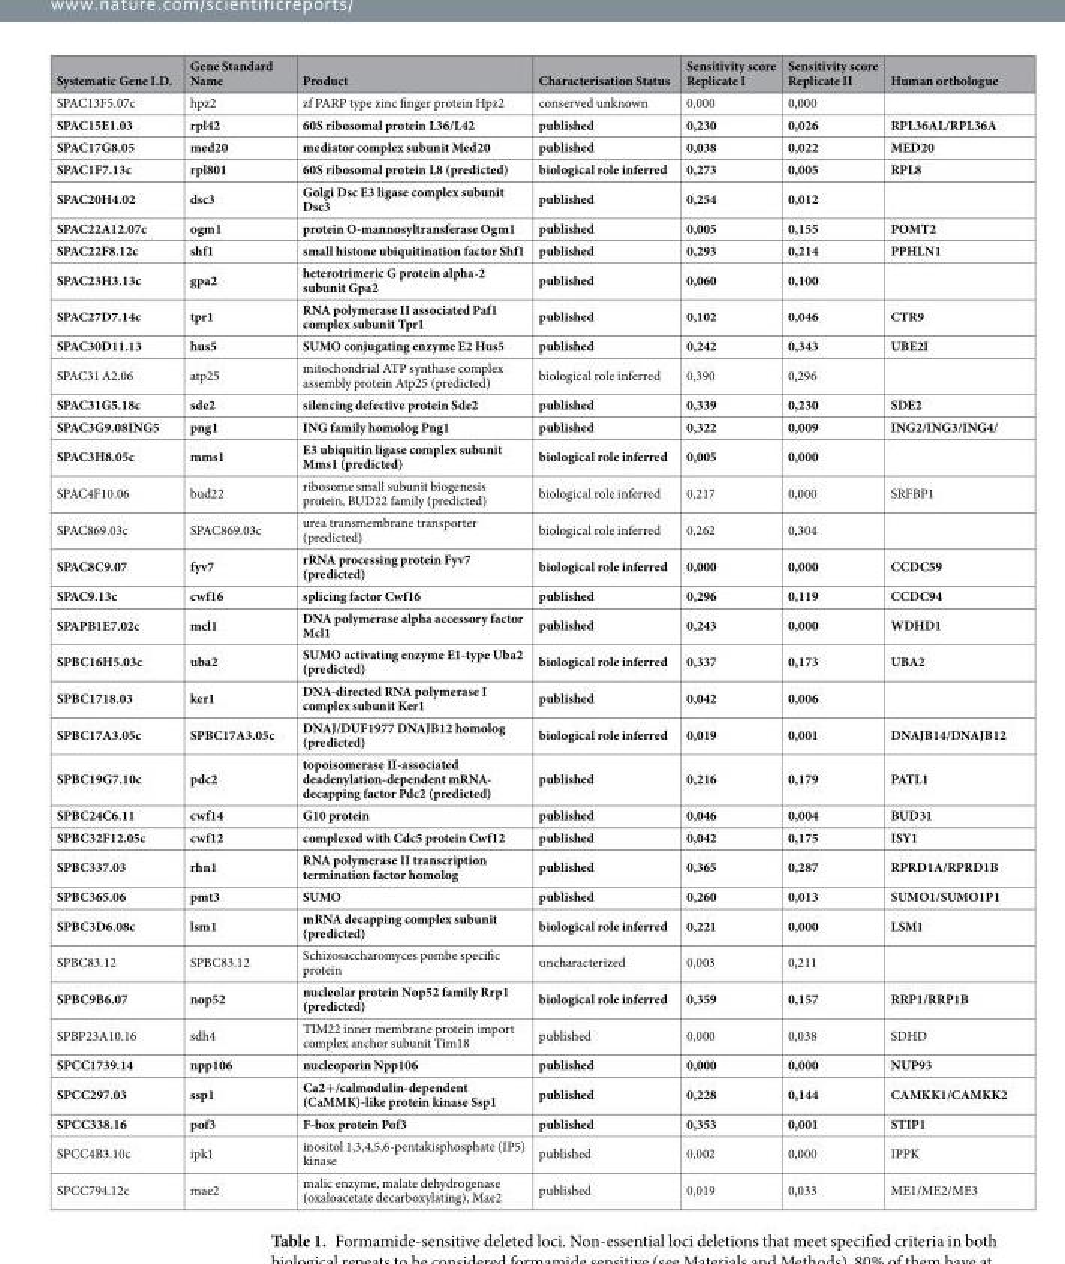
<table><thead><tr><td>Systematic Gene I.D.</td><td>Gene Standard Name</td><td>Product</td><td>Characterisation Status</td><td>Sensitivity score Replicate I</td><td>Sensitivity score Replicate II</td><td>Human orthologue</td></tr></thead><tbody><tr><td>SPAC13F5.07c</td><td>hpz2</td><td>zf PARP type zinc finger protein Hpz2</td><td>conserved unknown</td><td>0,000</td><td>0,000</td><td></td></tr><tr><td>SPAC15E1.03</td><td>rpl42</td><td>60S ribosomal protein L36/L42</td><td>published</td><td>0,230</td><td>0,026</td><td>RPL36AL/RPL36A</td></tr><tr><td>SPAC17G8.05</td><td>med20</td><td>mediator complex subunit Med20</td><td>published</td><td>0,038</td><td>0,022</td><td>MED20</td></tr><tr><td>SPAC1F7.13c</td><td>rpl801</td><td>60S ribosomal protein L8 (predicted)</td><td>biological role inferred</td><td>0,273</td><td>0,005</td><td>RPL8</td></tr><tr><td>SPAC20H4.02</td><td>dsc3</td><td>Golgi Dsc E3 ligase complex subunit Dsc3</td><td>published</td><td>0,254</td><td>0,012</td><td></td></tr><tr><td>SPAC22A12.07c</td><td>ogm1</td><td>protein O-mannosyltransferase Ogm1</td><td>published</td><td>0,005</td><td>0,155</td><td>POMT2</td></tr><tr><td>SPAC22F8.12c</td><td>shf1</td><td>small histone ubiquitination factor Shf1</td><td>published</td><td>0,293</td><td>0,214</td><td>PPHLN1</td></tr><tr><td>SPAC23H3.13c</td><td>gpa2</td><td>heterotrimeric G protein alpha-2 subunit Gpa2</td><td>published</td><td>0,060</td><td>0,100</td><td></td></tr><tr><td>SPAC27D7.14c</td><td>tpr1</td><td>RNA polymerase II associated Paf1 complex subunit Tpr1</td><td>published</td><td>0,102</td><td>0,046</td><td>CTR9</td></tr><tr><td>SPAC30D11.13</td><td>hus5</td><td>SUMO conjugating enzyme E2 Hus5</td><td>published</td><td>0,242</td><td>0,343</td><td>UBE2I</td></tr><tr><td>SPAC31 A2.06</td><td>atp25</td><td>mitochondrial ATP synthase complex assembly protein Atp25 (predicted)</td><td>biological role inferred</td><td>0,390</td><td>0,296</td><td></td></tr><tr><td>SPAC31G5.18c</td><td>sde2</td><td>silencing defective protein Sde2</td><td>published</td><td>0,339</td><td>0,230</td><td>SDE2</td></tr><tr><td>SPAC3G9.08ING5</td><td>png1</td><td>ING family homolog Png1</td><td>published</td><td>0,322</td><td>0,009</td><td>ING2/ING3/ING4/</td></tr><tr><td>SPAC3H8.05c</td><td>mms1</td><td>E3 ubiquitin ligase complex subunit Mms1 (predicted)</td><td>biological role inferred</td><td>0,005</td><td>0,000</td><td></td></tr><tr><td>SPAC4F10.06</td><td>bud22</td><td>ribosome small subunit biogenesis protein, BUD22 family (predicted)</td><td>biological role inferred</td><td>0,217</td><td>0,000</td><td>SRFBP1</td></tr><tr><td>SPAC869.03c</td><td>SPAC869.03c</td><td>urea transmembrane transporter (predicted)</td><td>biological role inferred</td><td>0,262</td><td>0,304</td><td></td></tr><tr><td>SPAC8C9.07</td><td>fyv7</td><td>rRNA processing protein Fyv7 (predicted)</td><td>biological role inferred</td><td>0,000</td><td>0,000</td><td>CCDC59</td></tr><tr><td>SPAC9.13c</td><td>cwf16</td><td>splicing factor Cwf16</td><td>published</td><td>0,296</td><td>0,119</td><td>CCDC94</td></tr><tr><td>SPAPB1E7.02c</td><td>mcl1</td><td>DNA polymerase alpha accessory factor Mcl1</td><td>published</td><td>0,243</td><td>0,000</td><td>WDHD1</td></tr><tr><td>SPBC16H5.03c</td><td>uba2</td><td>SUMO activating enzyme E1-type Uba2 (predicted)</td><td>biological role inferred</td><td>0,337</td><td>0,173</td><td>UBA2</td></tr><tr><td>SPBC1718.03</td><td>ker1</td><td>DNA-directed RNA polymerase I complex subunit Ker1</td><td>published</td><td>0,042</td><td>0,006</td><td></td></tr><tr><td>SPBC17A3.05c</td><td>SPBC17A3.05c</td><td>DNAJ/DUF1977 DNAJB12 homolog (predicted)</td><td>biological role inferred</td><td>0,019</td><td>0,001</td><td>DNAJB14/DNAJB12</td></tr><tr><td>SPBC19G7.10c</td><td>pdc2</td><td>topoisomerase II-associated deadenylation-dependent mRNA- decapping factor Pdc2 (predicted)</td><td>published</td><td>0,216</td><td>0,179</td><td>PATL1</td></tr><tr><td>SPBC24C6.11</td><td>cwf14</td><td>G10 protein</td><td>published</td><td>0,046</td><td>0,004</td><td>BUD31</td></tr><tr><td>SPBC32F12.05c</td><td>cwf12</td><td>complexed with Cdc5 protein Cwf12</td><td>published</td><td>0,042</td><td>0,175</td><td>ISY1</td></tr><tr><td>SPBC337.03</td><td>rhn1</td><td>RNA polymerase II transcription termination factor homolog</td><td>published</td><td>0,365</td><td>0,287</td><td>RPRD1A/RPRD1B</td></tr><tr><td>SPBC365.06</td><td>pmt3</td><td>SUMO</td><td>published</td><td>0,260</td><td>0,013</td><td>SUMO1/SUMO1P1</td></tr><tr><td>SPBC3D6.08c</td><td>lsm1</td><td>mRNA decapping complex subunit (predicted)</td><td>biological role inferred</td><td>0,221</td><td>0,000</td><td>LSM1</td></tr><tr><td>SPBC83.12</td><td>SPBC83.12</td><td>Schizosaccharomyces pombe specific protein</td><td>uncharacterized</td><td>0,003</td><td>0,211</td><td></td></tr><tr><td>SPBC9B6.07</td><td>nop52</td><td>nucleolar protein Nop52 family Rrp1 (predicted)</td><td>biological role inferred</td><td>0,359</td><td>0,157</td><td>RRP1/RRP1B</td></tr><tr><td>SPBP23A10.16</td><td>sdh4</td><td>TIM22 inner membrane protein import complex anchor subunit Tim18</td><td>published</td><td>0,000</td><td>0,038</td><td>SDHD</td></tr><tr><td>SPCC1739.14</td><td>npp106</td><td>nucleoporin Npp106</td><td>published</td><td>0,000</td><td>0,000</td><td>NUP93</td></tr><tr><td>SPCC297.03</td><td>ssp1</td><td>Ca2+/calmodulin-dependent (CaMMK)-like protein kinase Ssp1</td><td>published</td><td>0,228</td><td>0,144</td><td>CAMKK1/CAMKK2</td></tr><tr><td>SPCC338.16</td><td>pof3</td><td>F-box protein Pof3</td><td>published</td><td>0,353</td><td>0,001</td><td>STIP1</td></tr><tr><td>SPCC4B3.10c</td><td>ipk1</td><td>inositol 1,3,4,5,6-pentakisphosphate (IP5) kinase</td><td>published</td><td>0,002</td><td>0,000</td><td>IPPK</td></tr><tr><td>SPCC794.12c</td><td>mae2</td><td>malic enzyme, malate dehydrogenase (oxaloacetate decarboxylating), Mae2</td><td>published</td><td>0,019</td><td>0,033</td><td>ME1/ME2/ME3</td></tr></tbody></table>